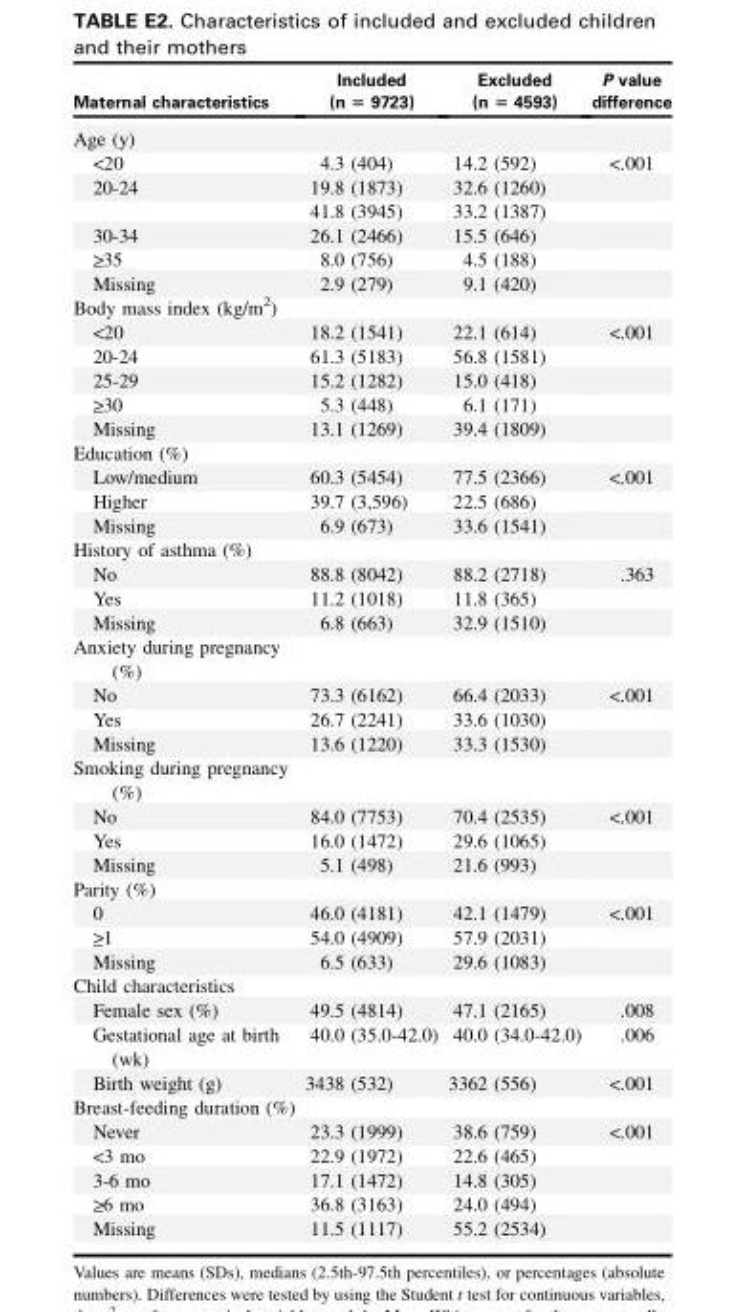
<table><thead><tr><td>Maternal characteristics</td><td>Included (n = 9723)</td><td>Excluded (n = 4593)</td><td>P value difference</td></tr></thead><tbody><tr><td colspan="4">Age (y)</td></tr><tr><td>&lt;20</td><td>4.3 (404)</td><td>14.2 (592)</td><td>&lt;.001</td></tr><tr><td rowspan="2">20-24</td><td>19.8 (1873)</td><td>32.6 (1260)</td><td></td></tr><tr><td>41.8 (3945)</td><td>33.2 (1387)</td><td></td></tr><tr><td>30-34</td><td>26.1 (2466)</td><td>15.5 (646)</td><td></td></tr><tr><td>&gt;_35</td><td>8.0 (756)</td><td>4.5 (188)</td><td></td></tr><tr><td>Missing</td><td>2.9 (279)</td><td>9.1 (420)</td><td></td></tr><tr><td colspan="4">Body mass index (kg/m<sup>2</sup>)</td></tr><tr><td>&lt;20</td><td>18.2 (1541)</td><td>22.1 (614)</td><td>&lt;.001</td></tr><tr><td>20-24</td><td>61.3 (5183)</td><td>56.8 (1581)</td><td></td></tr><tr><td>25-29</td><td>15.2 (1282)</td><td>15.0 (418)</td><td></td></tr><tr><td>&gt;_30</td><td>5.3 (448)</td><td>6.1 (171)</td><td></td></tr><tr><td>Missing</td><td>13.1 (1269)</td><td>39.4 (1809)</td><td></td></tr><tr><td colspan="4">Education (%)</td></tr><tr><td>Low/medium</td><td>60.3 (5454)</td><td>77.5 (2366)</td><td>&lt;.001</td></tr><tr><td>Higher</td><td>39.7 (3,596)</td><td>22.5 (686)</td><td></td></tr><tr><td>Missing</td><td>6.9 (673)</td><td>33.6 (1541)</td><td></td></tr><tr><td colspan="4">History of asthma (%)</td></tr><tr><td>No</td><td>88.8 (8042)</td><td>88.2 (2718)</td><td>.363</td></tr><tr><td>Yes</td><td>11.2 (1018)</td><td>11.8 (365)</td><td></td></tr><tr><td>Missing</td><td>6.8 (663)</td><td>32.9 (1510)</td><td></td></tr><tr><td colspan="4">Anxiety during pregnancy (%)</td></tr><tr><td>No</td><td>73.3 (6162)</td><td>66.4 (2033)</td><td>&lt;.001</td></tr><tr><td>Yes</td><td>26.7 (2241)</td><td>33.6 (1030)</td><td></td></tr><tr><td>Missing</td><td>13.6 (1220)</td><td>33.3 (1530)</td><td></td></tr><tr><td colspan="4">Smoking during pregnancy (%)</td></tr><tr><td>No</td><td>84.0 (7753)</td><td>70.4 (2535)</td><td>&lt;.001</td></tr><tr><td>Yes</td><td>16.0 (1472)</td><td>29.6 (1065)</td><td></td></tr><tr><td>Missing</td><td>5.1 (498)</td><td>21.6 (993)</td><td></td></tr><tr><td colspan="4">Parity (%)</td></tr><tr><td>0</td><td>46.0 (4181)</td><td>42.1 (1479)</td><td>&lt;.001</td></tr><tr><td>&gt;_1</td><td>54.0 (4909)</td><td>57.9 (2031)</td><td></td></tr><tr><td>Missing</td><td>6.5 (633)</td><td>29.6 (1083)</td><td></td></tr><tr><td colspan="4">Child characteristics</td></tr><tr><td>Female sex (%)</td><td>49.5 (4814)</td><td>47.1 (2165)</td><td>.008</td></tr><tr><td>Gestational age at birth (wk)</td><td>40.0 (35.0-42.0)</td><td>40.0 (34.0-42.0)</td><td>.006</td></tr><tr><td>Birth weight (g)</td><td>3438 (532)</td><td>3362 (556)</td><td>&lt;.001</td></tr><tr><td colspan="4">Breast-feeding duration (%)</td></tr><tr><td>Never</td><td>23.3 (1999)</td><td>38.6 (759)</td><td>&lt;.001</td></tr><tr><td>&lt;3 mo</td><td>22.9 (1972)</td><td>22.6 (465)</td><td></td></tr><tr><td>3-6 mo</td><td>17.1 (1472)</td><td>14.8 (305)</td><td></td></tr><tr><td>&gt;_6 mo</td><td>36.8 (3163)</td><td>24.0 (494)</td><td></td></tr><tr><td>Missing</td><td>11.5 (1117)</td><td>55.2 (2534)</td><td></td></tr></tbody></table>